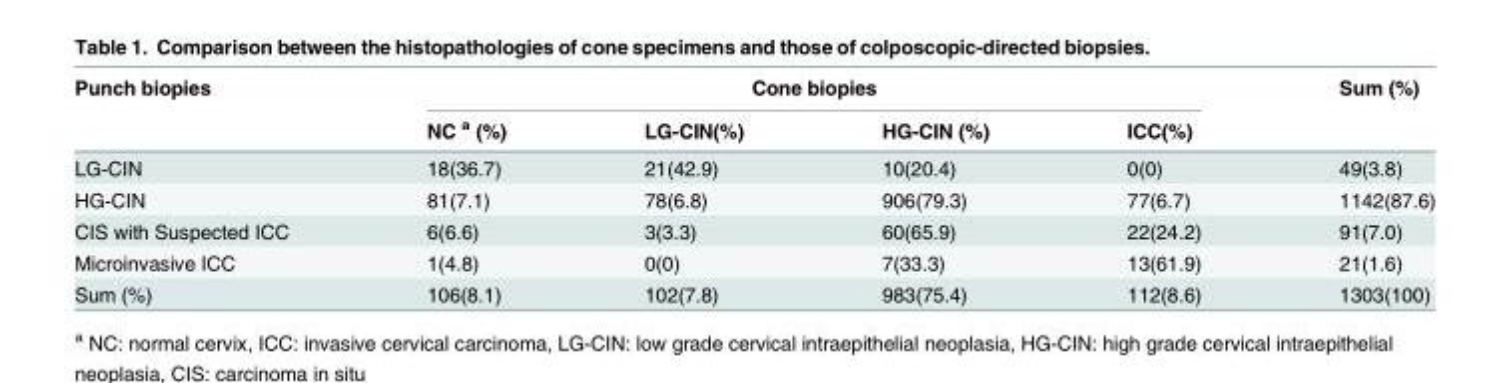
<table><thead><tr><td rowspan="2">Punch biopies</td><td colspan="4">Cone biopies</td><td rowspan="2">Sum (%)</td></tr><tr><td>NC <sup>a</sup> (%)</td><td>LG-CIN(%)</td><td>HG-CIN (%)</td><td>ICC(%)</td></tr></thead><tbody><tr><td>LG-CIN</td><td>18(36.7)</td><td>21(42.9)</td><td>10(20.4)</td><td>0(0)</td><td>49(3.8)</td></tr><tr><td>HG-CIN</td><td>81(7.1)</td><td>78(6.8)</td><td>906(79.3)</td><td>77(6.7)</td><td>1142(87.6)</td></tr><tr><td>CIS with Suspected ICC</td><td>6(6.6)</td><td>3(3.3)</td><td>60(65.9)</td><td>22(24.2)</td><td>91(7.0)</td></tr><tr><td>Microinvasive ICC</td><td>1(4.8)</td><td>0(0)</td><td>7(33.3)</td><td>13(61.9)</td><td>21(1.6)</td></tr><tr><td>Sum (%)</td><td>106(8.1)</td><td>102(7.8)</td><td>983(75.4)</td><td>112(8.6)</td><td>1303(100)</td></tr></tbody></table>